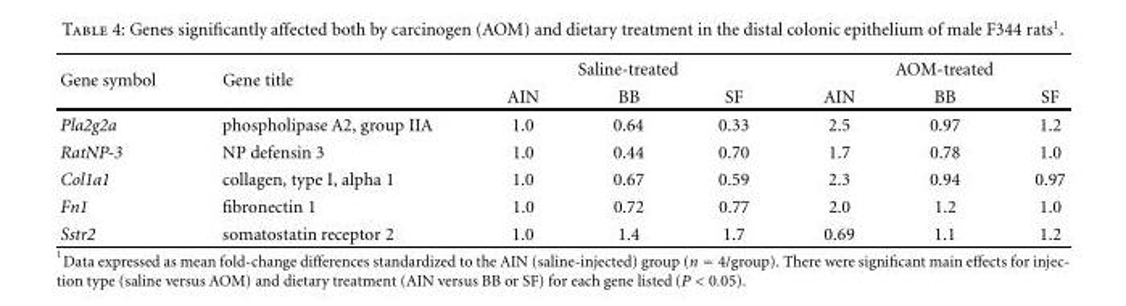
<table><thead><tr><td rowspan="2">Gene symbol</td><td rowspan="2">Gene title</td><td colspan="3">Saline-treated</td><td colspan="3">AOM-treated</td></tr><tr><td>AIN</td><td>BB</td><td>SF</td><td>AIN</td><td>BB</td><td>SF</td></tr></thead><tbody><tr><td>Pla2g2a</td><td>phospholipase A2, group IIA</td><td>1.0</td><td>0.64</td><td>0.33</td><td>2.5</td><td>0.97</td><td>1.2</td></tr><tr><td>RatNP-3</td><td>NP defensin 3</td><td>1.0</td><td>0.44</td><td>0.70</td><td>1.7</td><td>0.78</td><td>1.0</td></tr><tr><td>Col1a1</td><td>collagen, type I, alpha 1</td><td>1.0</td><td>0.67</td><td>0.59</td><td>2.3</td><td>0.94</td><td>0.97</td></tr><tr><td>Fn1</td><td>fibronectin 1</td><td>1.0</td><td>0.72</td><td>0.77</td><td>2.0</td><td>1.2</td><td>1.0</td></tr><tr><td>Sstr2</td><td>somatostatin receptor 2</td><td>1.0</td><td>1.4</td><td>1.7</td><td>0.69</td><td>1.1</td><td>1.2</td></tr></tbody></table>